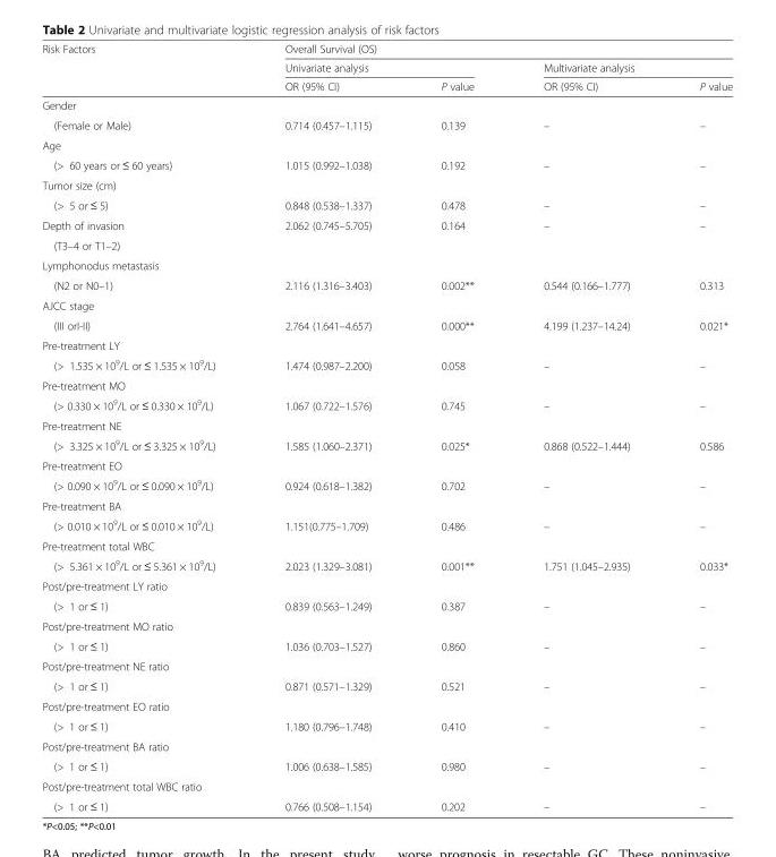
<table><thead><tr><td rowspan="3">Risk Factors</td><td colspan="4">Overall Survival (OS)</td></tr><tr><td colspan="2">Univariate analysis</td><td colspan="2">Multivariate analysis</td></tr><tr><td>OR (95% CI)</td><td>P value</td><td>OR (95% CI)</td><td>P value</td></tr></thead><tbody><tr><td colspan="5">Gender</td></tr><tr><td>(Female or Male)</td><td>0.714 (0.457–1.115)</td><td>0.139</td><td>–</td><td>–</td></tr><tr><td colspan="5">Age</td></tr><tr><td>(&gt; 60 years or ≤ 60 years)</td><td>1.015 (0.992–1.038)</td><td>0.192</td><td>–</td><td>–</td></tr><tr><td colspan="5">Tumor size (cm)</td></tr><tr><td>(&gt; 5 or ≤ 5)</td><td>0.848 (0.538–1.337)</td><td>0.478</td><td>–</td><td>–</td></tr><tr><td>Depth of invasion</td><td>2.062 (0.745–5.705)</td><td>0.164</td><td>–</td><td>–</td></tr><tr><td colspan="5">(T3–4 or T1–2)</td></tr><tr><td colspan="5">Lymphonodus metastasis</td></tr><tr><td>(N2 or N0–1)</td><td>2.116 (1.316–3.403)</td><td>0.002**</td><td>0.544 (0.166–1.777)</td><td>0.313</td></tr><tr><td colspan="5">AJCC stage</td></tr><tr><td>(III orI-II)</td><td>2.764 (1.641–4.657)</td><td>0.000**</td><td>4.199 (1.237–14.24)</td><td>0.021*</td></tr><tr><td colspan="5">Pre-treatment LY</td></tr><tr><td>(&gt; 1.535 × 10<sup>9</sup>/L or ≤ 1.535 × 10<sup>9</sup>/L)</td><td>1.474 (0.987–2.200)</td><td>0.058</td><td>–</td><td>–</td></tr><tr><td colspan="5">Pre-treatment MO</td></tr><tr><td>(&gt; 0.330 × 10<sup>9</sup>/L or ≤ 0.330 × 10<sup>9</sup>/L)</td><td>1.067 (0.722–1.576)</td><td>0.745</td><td>–</td><td>–</td></tr><tr><td colspan="5">Pre-treatment NE</td></tr><tr><td>(&gt; 3.325 × 10<sup>9</sup>/L or ≤ 3.325 × 10<sup>9</sup>/L)</td><td>1.585 (1.060–2.371)</td><td>0.025*</td><td>0.868 (0.522–1.444)</td><td>0.586</td></tr><tr><td colspan="5">Pre-treatment EO</td></tr><tr><td>(&gt; 0.090 × 10<sup>9</sup>/L or ≤ 0.090 × 10<sup>9</sup>/L)</td><td>0.924 (0.618–1.382)</td><td>0.702</td><td>–</td><td>–</td></tr><tr><td colspan="5">Pre-treatment BA</td></tr><tr><td>(&gt; 0.010 × 10<sup>9</sup>/L or ≤ 0.010 × 10<sup>9</sup>/L)</td><td>1.151(0.775–1.709)</td><td>0.486</td><td>–</td><td>–</td></tr><tr><td colspan="5">Pre-treatment total WBC</td></tr><tr><td>(&gt; 5.361 × 10<sup>9</sup>/L or ≤ 5.361 × 10<sup>9</sup>/L)</td><td>2.023 (1.329–3.081)</td><td>0.001**</td><td>1.751 (1.045–2.935)</td><td>0.033*</td></tr><tr><td colspan="5">Post/pre-treatment LY ratio</td></tr><tr><td>(&gt; 1 or ≤ 1)</td><td>0.839 (0.563–1.249)</td><td>0.387</td><td>–</td><td>–</td></tr><tr><td colspan="5">Post/pre-treatment MO ratio</td></tr><tr><td>(&gt; 1 or ≤ 1)</td><td>1.036 (0.703–1.527)</td><td>0.860</td><td>–</td><td>–</td></tr><tr><td colspan="5">Post/pre-treatment NE ratio</td></tr><tr><td>(&gt; 1 or ≤ 1)</td><td>0.871 (0.571–1.329)</td><td>0.521</td><td>–</td><td>–</td></tr><tr><td colspan="5">Post/pre-treatment EO ratio</td></tr><tr><td>(&gt; 1 or ≤ 1)</td><td>1.180 (0.796–1.748)</td><td>0.410</td><td>–</td><td>–</td></tr><tr><td colspan="5">Post/pre-treatment BA ratio</td></tr><tr><td>(&gt; 1 or ≤ 1)</td><td>1.006 (0.638–1.585)</td><td>0.980</td><td>–</td><td>–</td></tr><tr><td colspan="5">Post/pre-treatment total WBC ratio</td></tr><tr><td>(&gt; 1 or ≤ 1)</td><td>0.766 (0.508–1.154)</td><td>0.202</td><td>–</td><td>–</td></tr></tbody></table>